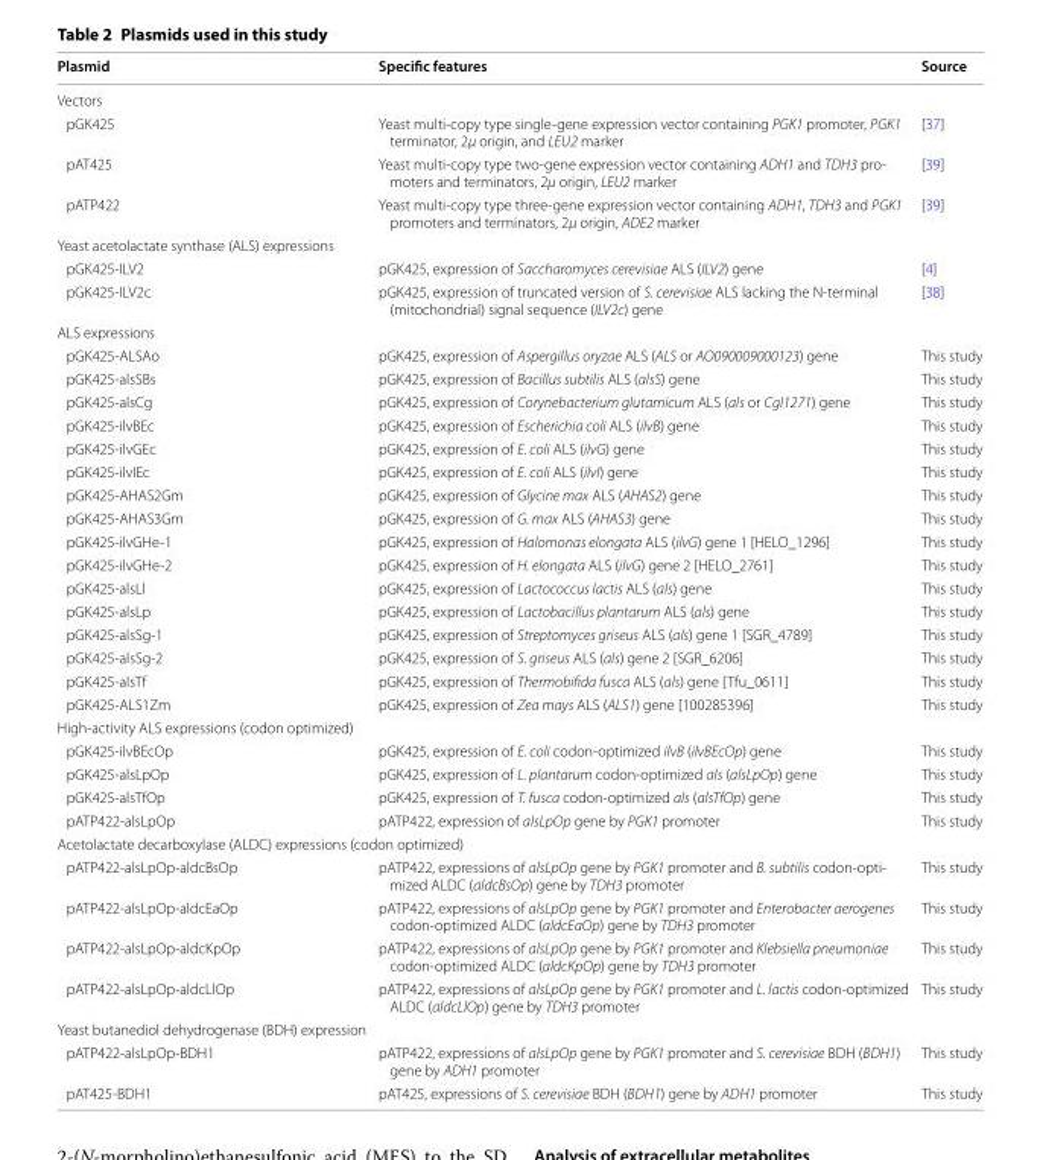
<table><thead><tr><td>Plasmid</td><td>Specific features</td><td>Source</td></tr></thead><tbody><tr><td colspan="3">Vectors</td></tr><tr><td>pGK425</td><td>Yeast multi-copy type single-gene expression vector containing PGK1 promoter, PGK1 terminator, 2μ origin, and LEU2 marker</td><td>[37]</td></tr><tr><td>pAT425</td><td>Yeast multi-copy type two-gene expression vector containing ADH1 and TDH3 pro- moters and terminators, 2μ origin, LEU2 marker</td><td>[39]</td></tr><tr><td>pATP422</td><td>Yeast multi-copy type three-gene expression vector containing ADH1, TDH3 and PGK1 promoters and terminators, 2μ origin, ADE2 marker</td><td>[39]</td></tr><tr><td colspan="3">Yeast acetolactate synthase (ALS) expressions</td></tr><tr><td>pGK425-ILV2</td><td>pGK425, expression of Saccharomyces cerevisiae ALS (ILV2) gene</td><td>[4]</td></tr><tr><td>pGK425-ILV2c</td><td>pGK425, expression of truncated version of S. cerevisiae ALS lacking the N-terminal (mitochondrial) signal sequence (ILV2c) gene</td><td>[38]</td></tr><tr><td colspan="3">ALS expressions</td></tr><tr><td>pGK425-ALSAo</td><td>pGK425, expression of Aspergillus oryzae ALS (ALS or AO090009000123) gene</td><td>This study</td></tr><tr><td>pGK425-alsSBs</td><td>pGK425, expression of Bacillus subtilis ALS (alsS) gene</td><td>This study</td></tr><tr><td>pGK425-alsCg</td><td>pGK425, expression of Corynebacterium glutamicum ALS (als or Cgl1271) gene</td><td>This study</td></tr><tr><td>pGK425-ilvBEc</td><td>pGK425, expression of Escherichia coli ALS (ilvB) gene</td><td>This study</td></tr><tr><td>pGK425-ilvGEc</td><td>pGK425, expression of E. coli ALS (ilvG) gene</td><td>This study</td></tr><tr><td>pGK425-ilvIEc</td><td>pGK425, expression of E. coli ALS (ilvI) gene</td><td>This study</td></tr><tr><td>pGK425-AHAS2Gm</td><td>pGK425, expression of Glycine max ALS (AHAS2) gene</td><td>This study</td></tr><tr><td>pGK425-AHAS3Gm</td><td>pGK425, expression of G. max ALS (AHAS3) gene</td><td>This study</td></tr><tr><td>pGK425-ilvGHe-1</td><td>pGK425, expression of Halomonas elongata ALS (ilvG) gene 1 [HELO_1296]</td><td>This study</td></tr><tr><td>pGK425-ilvGHe-2</td><td>pGK425, expression of H. elongata ALS (ilvG) gene 2 [HELO_2761]</td><td>This study</td></tr><tr><td>pGK425-alsLl</td><td>pGK425, expression of Lactococcus lactis ALS (als) gene</td><td>This study</td></tr><tr><td>pGK425-alsLp</td><td>pGK425, expression of Lactobacillus plantarum ALS (als) gene</td><td>This study</td></tr><tr><td>pGK425-alsSg-1</td><td>pGK425, expression of Streptomyces griseus ALS (als) gene 1 [SGR_4789]</td><td>This study</td></tr><tr><td>pGK425-alsSg-2</td><td>pGK425, expression of S. griseus ALS (als) gene 2 [SGR_6206]</td><td>This study</td></tr><tr><td>pGK425-alsTf</td><td>pGK425, expression of Thermobifida fusca ALS (als) gene [Tfu_0611]</td><td>This study</td></tr><tr><td>pGK425-ALS1Zm</td><td>pGK425, expression of Zea mays ALS (ALS1) gene [100285396]</td><td>This study</td></tr><tr><td colspan="3">High-activity ALS expressions (codon optimized)</td></tr><tr><td>pGK425-ilvBEcOp</td><td>pGK425, expression of E. coli codon-optimized ilvB (ilvBEcOp) gene</td><td>This study</td></tr><tr><td>pGK425-alsLpOp</td><td>pGK425, expression of L. plantarum codon-optimized als (alsLpOp) gene</td><td>This study</td></tr><tr><td>pGK425-alsTfOp</td><td>pGK425, expression of T. fusca codon-optimized als (alsTfOp) gene</td><td>This study</td></tr><tr><td>pATP422-alsLpOp</td><td>pATP422, expression of alsLpOp gene by PGK1 promoter</td><td>This study</td></tr><tr><td colspan="3">Acetolactate decarboxylase (ALDC) expressions (codon optimized)</td></tr><tr><td>pATP422-alsLpOp-aldcBsOp</td><td>pATP422, expressions of alsLpOp gene by PGK1 promoter and B. subtilis codon-opti- mized ALDC (aldcBsOp) gene by TDH3 promoter</td><td>This study</td></tr><tr><td>pATP422-alsLpOp-aldcEaOp</td><td>pATP422, expressions of alsLpOp gene by PGK1 promoter and Enterobacter aerogenes codon-optimized ALDC (aldcEaOp) gene by TDH3 promoter</td><td>This study</td></tr><tr><td>pATP422-alsLpOp-aldcKpOp</td><td>pATP422, expressions of alsLpOp gene by PGK1 promoter and Klebsiella pneumoniae codon-optimized ALDC (aldcKpOp) gene by TDH3 promoter</td><td>This study</td></tr><tr><td>pATP422-alsLpOp-aldcLlOp</td><td>pATP422, expressions of alsLpOp gene by PGK1 promoter and L. lactis codon-optimized ALDC (aldcLlOp) gene by TDH3 promoter</td><td>This study</td></tr><tr><td colspan="3">Yeast butanediol dehydrogenase (BDH) expression</td></tr><tr><td>pATP422-alsLpOp-BDH1</td><td>pATP422, expressions of alsLpOp gene by PGK1 promoter and S. cerevisiae BDH (BDH1) gene by ADH1 promoter</td><td>This study</td></tr><tr><td>pAT425-BDH1</td><td>pAT425, expressions of S. cerevisiae BDH (BDH1) gene by ADH1 promoter</td><td>This study</td></tr></tbody></table>